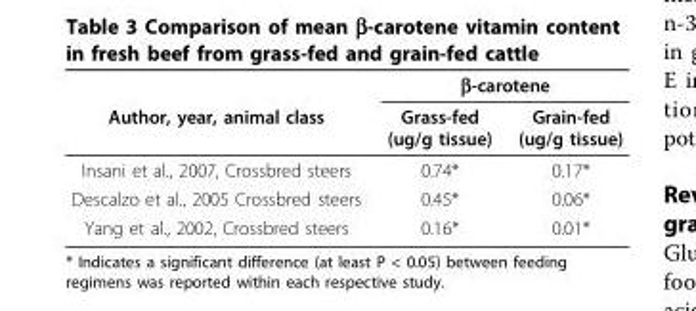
<table><thead><tr><td rowspan="2">Author, year, animal class</td><td colspan="2">β-carotene</td></tr><tr><td>Grass-fed (ug/g tissue)</td><td>Grain-fed (ug/g tissue)</td></tr></thead><tbody><tr><td>Insani et al., 2007, Crossbred steers</td><td>0.74*</td><td>0.17*</td></tr><tr><td>Descalzo et al., 2005 Crossbred steers</td><td>0.45*</td><td>0.06*</td></tr><tr><td>Yang et al., 2002, Crossbred steers</td><td>0.16*</td><td>0.01*</td></tr></tbody></table>